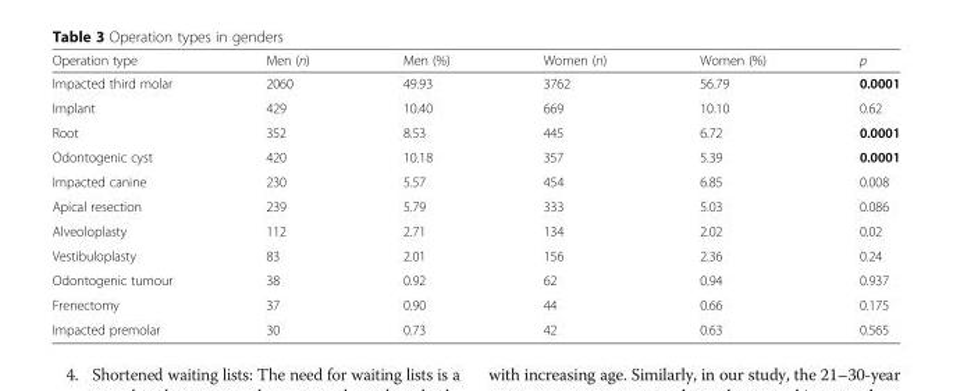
<table><thead><tr><td>Operation type</td><td>Men (n)</td><td>Men (%)</td><td>Women (n)</td><td>Women (%)</td><td>p</td></tr></thead><tbody><tr><td>Impacted third molar</td><td>2060</td><td>49.93</td><td>3762</td><td>56.79</td><td>0.0001</td></tr><tr><td>Implant</td><td>429</td><td>10.40</td><td>669</td><td>10.10</td><td>0.62</td></tr><tr><td>Root</td><td>352</td><td>8.53</td><td>445</td><td>6.72</td><td>0.0001</td></tr><tr><td>Odontogenic cyst</td><td>420</td><td>10.18</td><td>357</td><td>5.39</td><td>0.0001</td></tr><tr><td>Impacted canine</td><td>230</td><td>5.57</td><td>454</td><td>6.85</td><td>0.008</td></tr><tr><td>Apical resection</td><td>239</td><td>5.79</td><td>333</td><td>5.03</td><td>0.086</td></tr><tr><td>Alveoloplasty</td><td>112</td><td>2.71</td><td>134</td><td>2.02</td><td>0.02</td></tr><tr><td>Vestibuloplasty</td><td>83</td><td>2.01</td><td>156</td><td>2.36</td><td>0.24</td></tr><tr><td>Odontogenic tumour</td><td>38</td><td>0.92</td><td>62</td><td>0.94</td><td>0.937</td></tr><tr><td>Frenectomy</td><td>37</td><td>0.90</td><td>44</td><td>0.66</td><td>0.175</td></tr><tr><td>Impacted premolar</td><td>30</td><td>0.73</td><td>42</td><td>0.63</td><td>0.565</td></tr></tbody></table>